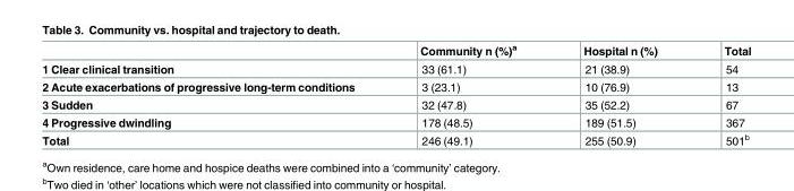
<table><thead><tr><td></td><td>Community n (%)<sup>a</sup></td><td>Hospital n (%)</td><td>Total</td></tr></thead><tbody><tr><td>1 Clear clinical transition</td><td>33 (61.1)</td><td>21 (38.9)</td><td>54</td></tr><tr><td>2 Acute exacerbations of progressive long-term conditions</td><td>3 (23.1)</td><td>10 (76.9)</td><td>13</td></tr><tr><td>3 Sudden</td><td>32 (47.8)</td><td>35 (52.2)</td><td>67</td></tr><tr><td>4 Progressive dwindling</td><td>178 (48.5)</td><td>189 (51.5)</td><td>367</td></tr><tr><td>Total</td><td>246 (49.1)</td><td>255 (50.9)</td><td>501<sup>b</sup></td></tr></tbody></table>